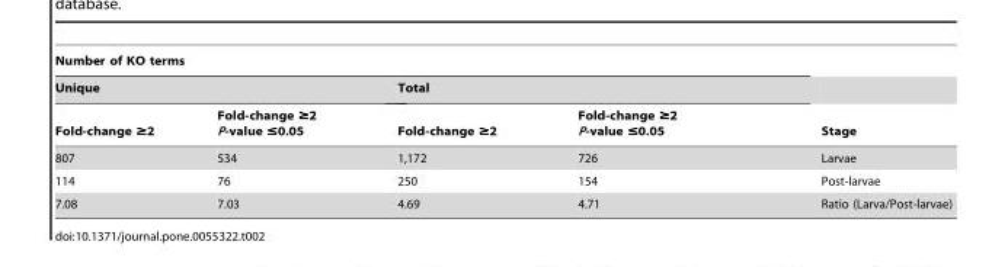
<table><thead><tr><td colspan="4">Number of KO terms</td><td rowspan="3">Stage</td></tr><tr><td colspan="2">Unique</td><td colspan="2">Total</td></tr><tr><td>Fold-change ≥2</td><td>Fold-change ≥2 P-value ≤0.05</td><td>Fold-change ≥2</td><td>Fold-change ≥2 P-value ≤0.05</td></tr></thead><tbody><tr><td>807</td><td>534</td><td>1,172</td><td>726</td><td>Larvae</td></tr><tr><td>114</td><td>76</td><td>250</td><td>154</td><td>Post-larvae</td></tr><tr><td>7.08</td><td>7.03</td><td>4.69</td><td>4.71</td><td>Ratio (Larva/Post-larvae)</td></tr></tbody></table>